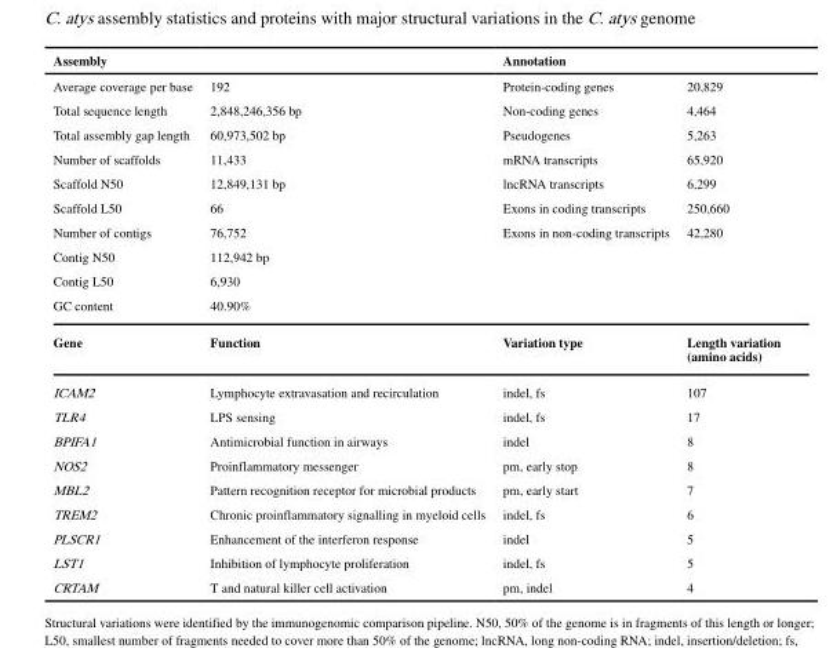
<table><thead><tr><td>Assembly</td><td></td><td>Annotation</td><td></td></tr></thead><tbody><tr><td>Average coverage per base</td><td>192</td><td>Protein-coding genes</td><td>20,829</td></tr><tr><td>Total sequence length</td><td>2,848,246,356 bp</td><td>Non-coding genes</td><td>4,464</td></tr><tr><td>Total assembly gap length</td><td>60,973,502 bp</td><td>Pseudogenes</td><td>5,263</td></tr><tr><td>Number of scaffolds</td><td>11,433</td><td>mRNA transcripts</td><td>65,920</td></tr><tr><td>Scaffold N50</td><td>12,849,131 bp</td><td>lncRNA transcripts</td><td>6,299</td></tr><tr><td>Scaffold L50</td><td>66</td><td>Exons in coding transcripts</td><td>250,660</td></tr><tr><td>Number of contigs</td><td>76,752</td><td>Exons in non-coding transcripts</td><td>42,280</td></tr><tr><td>Contig N50</td><td>112,942 bp</td><td></td><td></td></tr><tr><td>Contig L50</td><td>6,930</td><td></td><td></td></tr><tr><td>GC content</td><td>40.90%</td><td></td><td></td></tr><tr><td>Gene</td><td>Function</td><td>Variation type</td><td>Length variation (amino acids)</td></tr><tr><td>ICAM2</td><td>Lymphocyte extravasation and recirculation</td><td>indel, fs</td><td>107</td></tr><tr><td>TLR4</td><td>LPS sensing</td><td>indel, fs</td><td>17</td></tr><tr><td>BPIFA1</td><td>Antimicrobial function in airways</td><td>indel</td><td>8</td></tr><tr><td>NOS2</td><td>Proinflammatory messenger</td><td>pm, early stop</td><td>8</td></tr><tr><td>MBL2</td><td>Pattern recognition receptor for microbial products</td><td>pm, early start</td><td>7</td></tr><tr><td>TREM2</td><td>Chronic proinflammatory signalling in myeloid cells</td><td>indel, fs</td><td>6</td></tr><tr><td>PLSCR1</td><td>Enhancement of the interferon response</td><td>indel</td><td>5</td></tr><tr><td>LST1</td><td>Inhibition of lymphocyte proliferation</td><td>indel, fs</td><td>5</td></tr><tr><td>CRTAM</td><td>T and natural killer cell activation</td><td>pm, indel</td><td>4</td></tr></tbody></table>